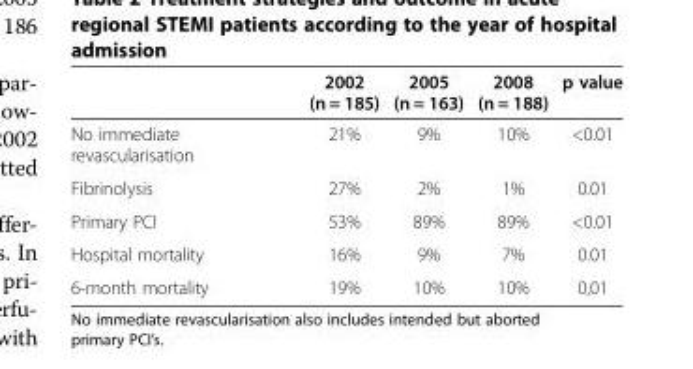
<table><thead><tr><td></td><td>2002 (n = 185)</td><td>2005 (n = 163)</td><td>2008 (n = 188)</td><td>p value</td></tr></thead><tbody><tr><td>No immediate revascularisation</td><td>21%</td><td>9%</td><td>10%</td><td>&lt;0.01</td></tr><tr><td>Fibrinolysis</td><td>27%</td><td>2%</td><td>1%</td><td>0.01</td></tr><tr><td>Primary PCI</td><td>53%</td><td>89%</td><td>89%</td><td>&lt;0.01</td></tr><tr><td>Hospital mortality</td><td>16%</td><td>9%</td><td>7%</td><td>0.01</td></tr><tr><td>6-month mortality</td><td>19%</td><td>10%</td><td>10%</td><td>0,01</td></tr></tbody></table>